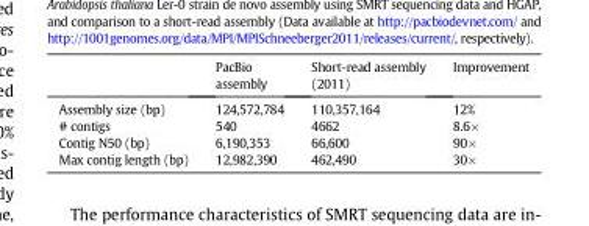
<table><thead><tr><td></td><td>PacBio assembly</td><td>Short-read assembly (2011)</td><td>Improvement</td></tr></thead><tbody><tr><td>Assembly size (bp)</td><td>124,572,784</td><td>110,357,164</td><td>12%</td></tr><tr><td># contigs</td><td>540</td><td>4662</td><td>8.6×</td></tr><tr><td>Contig N50 (bp)</td><td>6,190,353</td><td>66,600</td><td>90×</td></tr><tr><td>Max contig length (bp)</td><td>12,982,390</td><td>462,490</td><td>30×</td></tr></tbody></table>